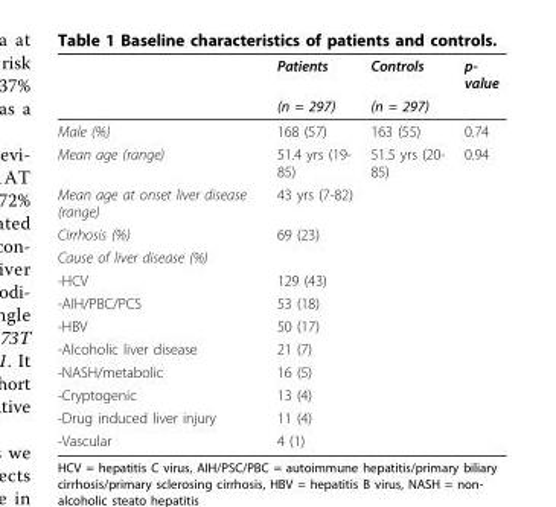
<table><thead><tr><td rowspan="2"></td><td rowspan="2">Patients (n = 297)</td><td rowspan="2">Controls (n = 297)</td><td rowspan="2">p- value</td></tr><tr></tr></thead><tbody><tr><td>Male (%)</td><td>168 (57)</td><td>163 (55)</td><td>0.74</td></tr><tr><td>Mean age (range)</td><td>51.4 yrs (19- 85)</td><td>51.5 yrs (20- 85)</td><td>0.94</td></tr><tr><td>Mean age at onset liver disease (range)</td><td>43 yrs (7-82)</td><td></td><td></td></tr><tr><td>Cirrhosis (%)</td><td>69 (23)</td><td></td><td></td></tr><tr><td colspan="4">Cause of liver disease (%)</td></tr><tr><td>-HCV</td><td>129 (43)</td><td></td><td></td></tr><tr><td>-AIH/PBC/PCS</td><td>53 (18)</td><td></td><td></td></tr><tr><td>-HBV</td><td>50 (17)</td><td></td><td></td></tr><tr><td>-Alcoholic liver disease</td><td>21 (7)</td><td></td><td></td></tr><tr><td>-NASH/metabolic</td><td>16 (5)</td><td></td><td></td></tr><tr><td>-Cryptogenic</td><td>13 (4)</td><td></td><td></td></tr><tr><td>-Drug induced liver injury</td><td>11 (4)</td><td></td><td></td></tr><tr><td>-Vascular</td><td>4 (1)</td><td></td><td></td></tr></tbody></table>